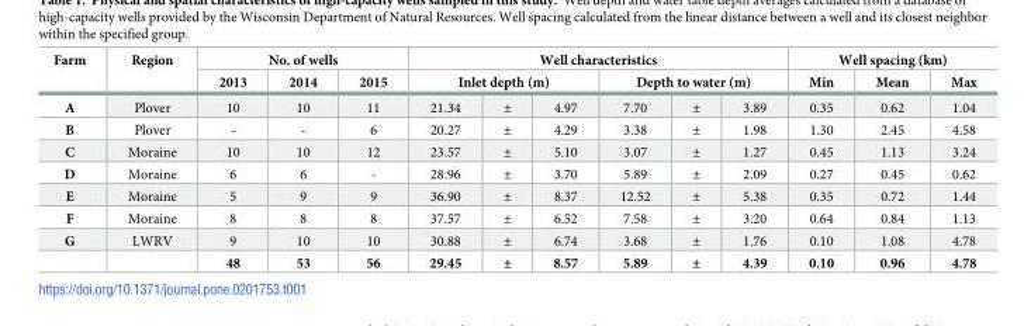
<table><thead><tr><td rowspan="3">Farm A</td><td rowspan="3">Region Plover</td><td colspan="3">No. of wells</td><td colspan="6">Well characteristics</td><td colspan="3">Well spacing (km)</td></tr><tr><td rowspan="2">2013 10</td><td rowspan="2">2014 10</td><td rowspan="2">2015 11</td><td colspan="3">Inlet depth (m)</td><td colspan="3">Depth to water (m)</td><td rowspan="2">Min 0.35</td><td rowspan="2">Mean 0.62</td><td rowspan="2">Max 1.04</td></tr><tr><td>21.34</td><td>±</td><td>4.97</td><td>7.70</td><td>±</td><td>3.89</td></tr></thead><tbody><tr><td>B</td><td>Plover</td><td>-</td><td>-</td><td>6</td><td>20.27</td><td>±</td><td>4.29</td><td>3.38</td><td>±</td><td>1.98</td><td>1.30</td><td>2.45</td><td>4.58</td></tr><tr><td>C</td><td>Moraine</td><td>10</td><td>10</td><td>12</td><td>23.57</td><td>±</td><td>5.10</td><td>3.07</td><td>±</td><td>1.27</td><td>0.45</td><td>1.13</td><td>3.24</td></tr><tr><td>D</td><td>Moraine</td><td>6</td><td>6</td><td>-</td><td>28.96</td><td>±</td><td>3.70</td><td>5.89</td><td>±</td><td>2.09</td><td>0.27</td><td>0.45</td><td>0.62</td></tr><tr><td>E</td><td>Moraine</td><td>5</td><td>9</td><td>9</td><td>36.90</td><td>±</td><td>8.37</td><td>12.52</td><td>±</td><td>5.38</td><td>0.35</td><td>0.72</td><td>1.44</td></tr><tr><td>F</td><td>Moraine</td><td>8</td><td>8</td><td>8</td><td>37.57</td><td>±</td><td>6.52</td><td>7.58</td><td>±</td><td>3.20</td><td>0.64</td><td>0.84</td><td>1.13</td></tr><tr><td rowspan="2">G</td><td>LWRV</td><td>9</td><td>10</td><td>10</td><td>30.88</td><td>±</td><td>6.74</td><td>3.68</td><td>±</td><td>1.76</td><td>0.10</td><td>1.08</td><td>4.78</td></tr><tr><td></td><td>48</td><td>53</td><td>56</td><td>29.45</td><td>±</td><td>8.57</td><td>5.89</td><td>±</td><td>4.39</td><td>0.10</td><td>0.96</td><td>4.78</td></tr></tbody></table>